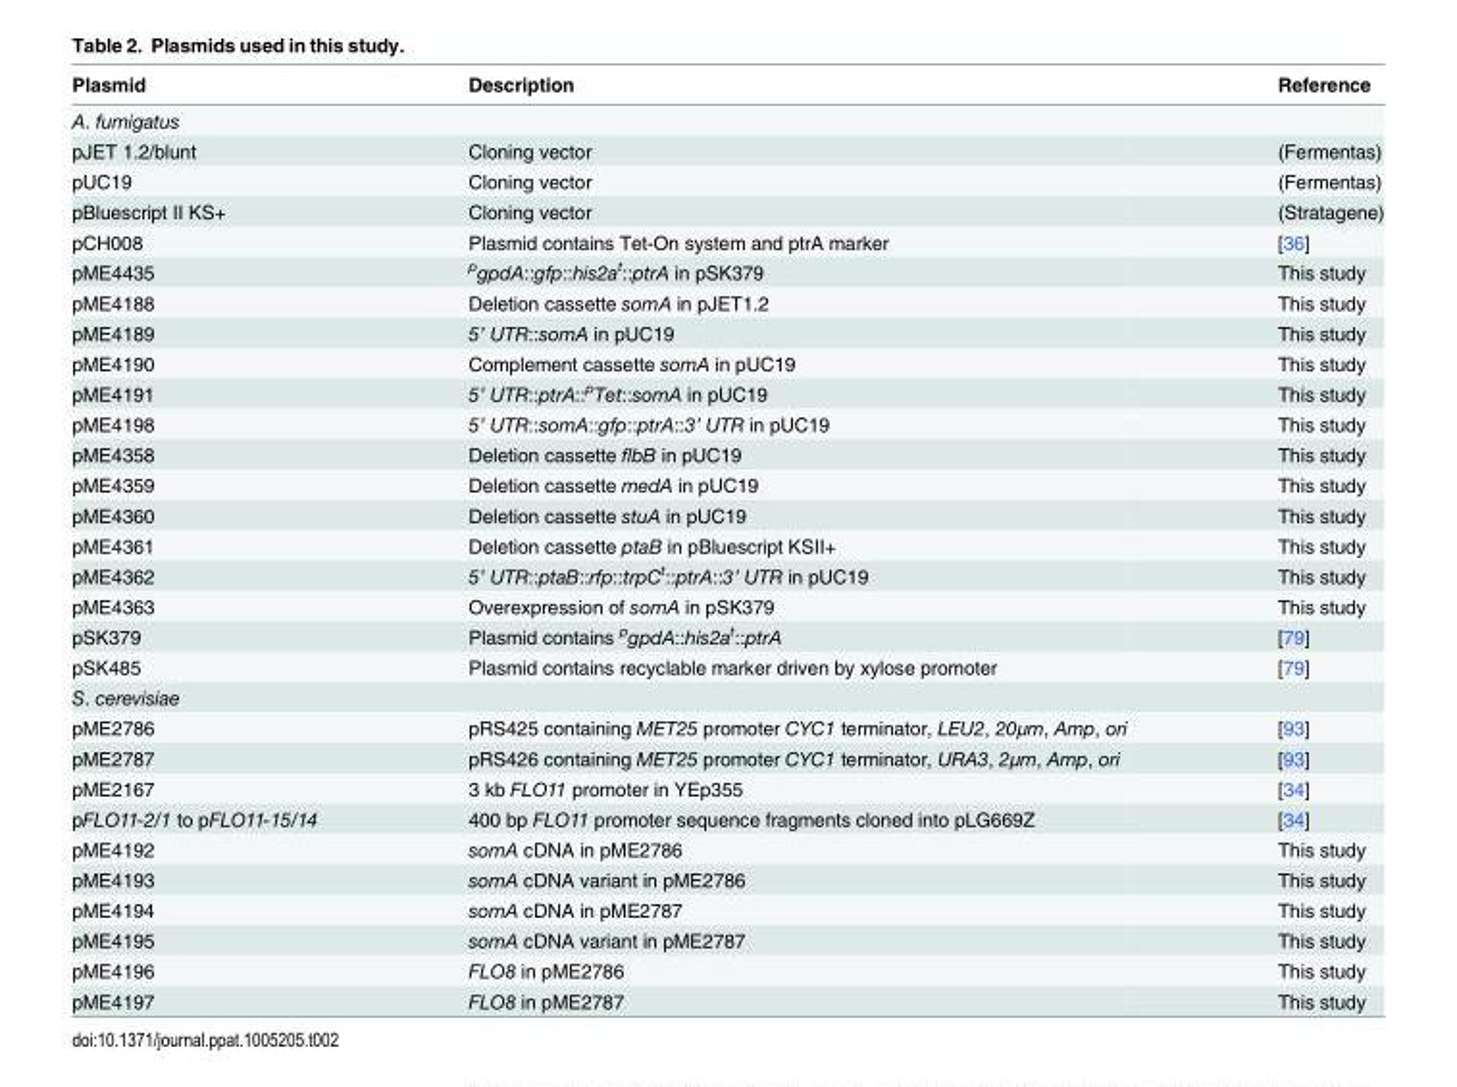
<table><thead><tr><td>Plasmid</td><td>Description</td><td>Reference</td></tr></thead><tbody><tr><td colspan="3">A. fumigatus</td></tr><tr><td>pJET 1.2/blunt</td><td>Cloning vector</td><td>(Fermentas)</td></tr><tr><td>pUC19</td><td>Cloning vector</td><td>(Fermentas)</td></tr><tr><td>pBluescript II KS+</td><td>Cloning vector</td><td>(Stratagene)</td></tr><tr><td>pCH008</td><td>Plasmid contains Tet-On system and ptrA marker</td><td>[36]</td></tr><tr><td>pME4435</td><td><sup>p</sup>gpdA::gfp::his2a<sup>t</sup>::ptrA in pSK379</td><td>This study</td></tr><tr><td>pME4188</td><td>Deletion cassette somA in pJET1.2</td><td>This study</td></tr><tr><td>pME4189</td><td>5’ UTR::somA in pUC19</td><td>This study</td></tr><tr><td>pME4190</td><td>Complement cassette somA in pUC19</td><td>This study</td></tr><tr><td>pME4191</td><td>5’ UTR::ptrA::<sup>p</sup>Tet::somA in pUC19</td><td>This study</td></tr><tr><td>pME4198</td><td>5’ UTR::somA::gfp::ptrA::3’ UTR in pUC19</td><td>This study</td></tr><tr><td>pME4358</td><td>Deletion cassette flbB in pUC19</td><td>This study</td></tr><tr><td>pME4359</td><td>Deletion cassette medA in pUC19</td><td>This study</td></tr><tr><td>pME4360</td><td>Deletion cassette stuA in pUC19</td><td>This study</td></tr><tr><td>pME4361</td><td>Deletion cassette ptaB in pBluescript KSII+</td><td>This study</td></tr><tr><td>pME4362</td><td>5’ UTR::ptaB::rfp::trpC<sup>t</sup>::ptrA::3’ UTR in pUC19</td><td>This study</td></tr><tr><td>pME4363</td><td>Overexpression of somA in pSK379</td><td>This study</td></tr><tr><td>pSK379</td><td>Plasmid contains <sup>p</sup>gpdA::his2a<sup>t</sup>::ptrA</td><td>[79]</td></tr><tr><td>pSK485</td><td>Plasmid contains recyclable marker driven by xylose promoter</td><td>[79]</td></tr><tr><td colspan="3">S. cerevisiae</td></tr><tr><td>pME2786</td><td>pRS425 containing MET25 promoter CYC1 terminator, LEU2, 20μm, Amp, ori</td><td>[93]</td></tr><tr><td>pME2787</td><td>pRS426 containing MET25 promoter CYC1 terminator, URA3, 2μm, Amp, ori</td><td>[93]</td></tr><tr><td>pME2167</td><td>3 kb FLO11 promoter in YEp355</td><td>[34]</td></tr><tr><td>pFLO11-2/1 to pFLO11-15/14</td><td>400 bp FLO11 promoter sequence fragments cloned into pLG669Z</td><td>[34]</td></tr><tr><td>pME4192</td><td>somA cDNA in pME2786</td><td>This study</td></tr><tr><td>pME4193</td><td>somA cDNA variant in pME2786</td><td>This study</td></tr><tr><td>pME4194</td><td>somA cDNA in pME2787</td><td>This study</td></tr><tr><td>pME4195</td><td>somA cDNA variant in pME2787</td><td>This study</td></tr><tr><td>pME4196</td><td>FLO8 in pME2786</td><td>This study</td></tr><tr><td>pME4197</td><td>FLO8 in pME2787</td><td>This study</td></tr></tbody></table>